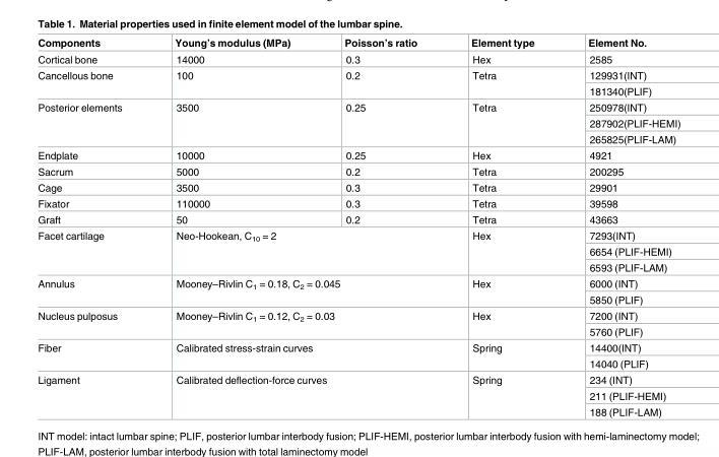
<table><thead><tr><td>Components</td><td>Young’s modulus (MPa)</td><td>Poisson’s ratio</td><td>Element type</td><td>Element No.</td></tr></thead><tbody><tr><td>Cortical bone</td><td>14000</td><td>0.3</td><td>Hex</td><td>2585</td></tr><tr><td rowspan="2">Cancellous bone</td><td rowspan="2">100</td><td rowspan="2">0.2</td><td rowspan="2">Tetra</td><td>129931(INT)</td></tr><tr><td>181340(PLIF)</td></tr><tr><td rowspan="3">Posterior elements</td><td rowspan="3">3500</td><td rowspan="3">0.25</td><td rowspan="3">Tetra</td><td>250978(INT)</td></tr><tr><td>287902(PLIF-HEMI)</td></tr><tr><td>265825(PLIF-LAM)</td></tr><tr><td>Endplate</td><td>10000</td><td>0.25</td><td>Hex</td><td>4921</td></tr><tr><td>Sacrum</td><td>5000</td><td>0.2</td><td>Tetra</td><td>200295</td></tr><tr><td>Cage</td><td>3500</td><td>0.3</td><td>Tetra</td><td>29901</td></tr><tr><td>Fixator</td><td>110000</td><td>0.3</td><td>Tetra</td><td>39598</td></tr><tr><td>Graft</td><td>50</td><td>0.2</td><td>Tetra</td><td>43663</td></tr><tr><td rowspan="3">Facet cartilage</td><td rowspan="3" colspan="2">Neo-Hookean, C<sub>10</sub> = 2</td><td rowspan="3">Hex</td><td>7293(INT)</td></tr><tr><td>6654 (PLIF-HEMI)</td></tr><tr><td>6593 (PLIF-LAM)</td></tr><tr><td rowspan="2">Annulus</td><td rowspan="2" colspan="2">Mooney–Rivlin C<sub>1</sub> = 0.18, C<sub>2</sub> = 0.045</td><td rowspan="2">Hex</td><td>6000 (INT)</td></tr><tr><td>5850 (PLIF)</td></tr><tr><td rowspan="2">Nucleus pulposus</td><td rowspan="2" colspan="2">Mooney–Rivlin C<sub>1</sub> = 0.12, C<sub>2</sub> = 0.03</td><td rowspan="2">Hex</td><td>7200 (INT)</td></tr><tr><td>5760 (PLIF)</td></tr><tr><td rowspan="2">Fiber</td><td rowspan="2" colspan="2">Calibrated stress-strain curves</td><td rowspan="2">Spring</td><td>14400(INT)</td></tr><tr><td>14040 (PLIF)</td></tr><tr><td rowspan="3">Ligament</td><td rowspan="3" colspan="2">Calibrated deflection-force curves</td><td rowspan="3">Spring</td><td>234 (INT)</td></tr><tr><td>211 (PLIF-HEMI)</td></tr><tr><td>188 (PLIF-LAM)</td></tr></tbody></table>